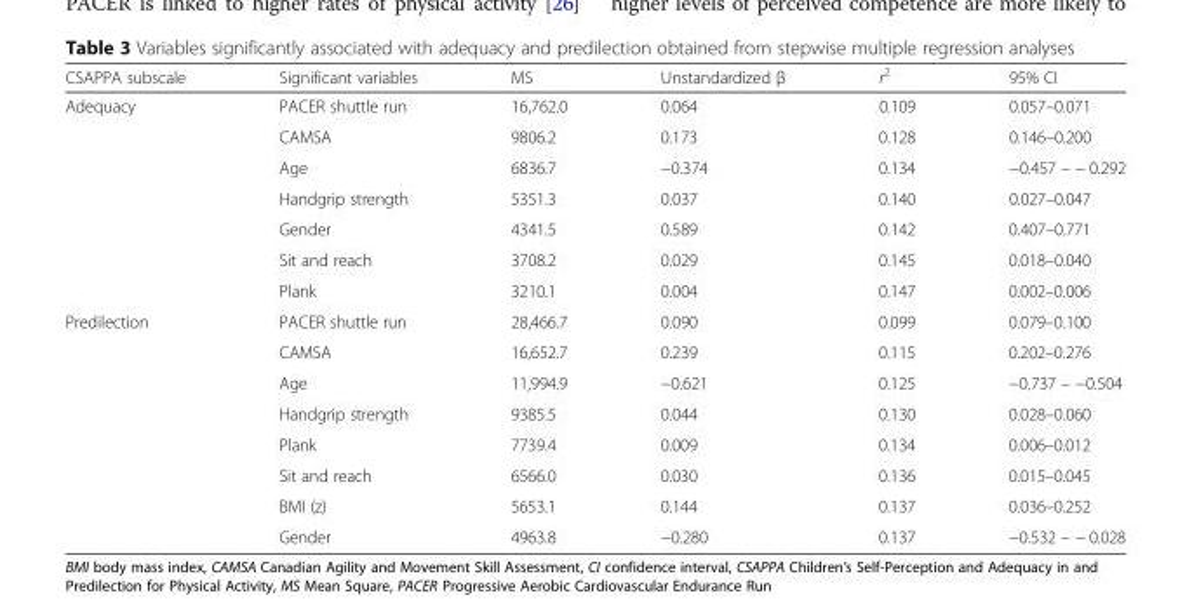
<table><thead><tr><td>CSAPPA subscale</td><td>Significant variables</td><td>MS</td><td>Unstandardized β</td><td>r<sup>2</sup></td><td>95% CI</td></tr></thead><tbody><tr><td rowspan="7">Adequacy</td><td>PACER shuttle run</td><td>16,762.0</td><td>0.064</td><td>0.109</td><td>0.057–0.071</td></tr><tr><td>CAMSA</td><td>9806.2</td><td>0.173</td><td>0.128</td><td>0.146–0.200</td></tr><tr><td>Age</td><td>6836.7</td><td>−0.374</td><td>0.134</td><td>−0.457 – − 0.292</td></tr><tr><td>Handgrip strength</td><td>5351.3</td><td>0.037</td><td>0.140</td><td>0.027–0.047</td></tr><tr><td>Gender</td><td>4341.5</td><td>0.589</td><td>0.142</td><td>0.407–0.771</td></tr><tr><td>Sit and reach</td><td>3708.2</td><td>0.029</td><td>0.145</td><td>0.018–0.040</td></tr><tr><td>Plank</td><td>3210.1</td><td>0.004</td><td>0.147</td><td>0.002–0.006</td></tr><tr><td rowspan="8">Predilection</td><td>PACER shuttle run</td><td>28,466.7</td><td>0.090</td><td>0.099</td><td>0.079–0.100</td></tr><tr><td>CAMSA</td><td>16,652.7</td><td>0.239</td><td>0.115</td><td>0.202–0.276</td></tr><tr><td>Age</td><td>11,994.9</td><td>−0.621</td><td>0.125</td><td>−0.737 – −0.504</td></tr><tr><td>Handgrip strength</td><td>9385.5</td><td>0.044</td><td>0.130</td><td>0.028–0.060</td></tr><tr><td>Plank</td><td>7739.4</td><td>0.009</td><td>0.134</td><td>0.006–0.012</td></tr><tr><td>Sit and reach</td><td>6566.0</td><td>0.030</td><td>0.136</td><td>0.015–0.045</td></tr><tr><td>BMI (z)</td><td>5653.1</td><td>0.144</td><td>0.137</td><td>0.036–0.252</td></tr><tr><td>Gender</td><td>4963.8</td><td>−0.280</td><td>0.137</td><td>−0.532 – − 0.028</td></tr></tbody></table>